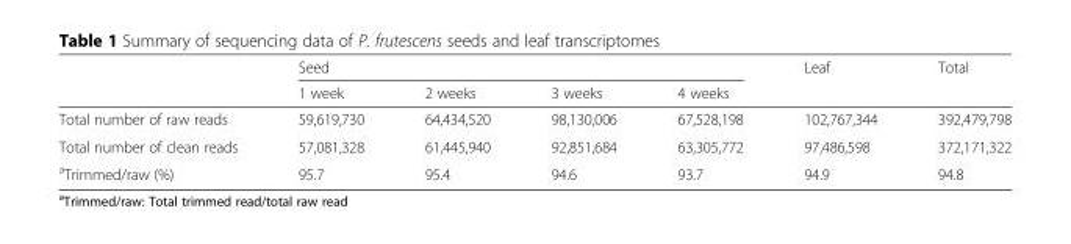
<table><thead><tr><td rowspan="2"></td><td colspan="4">Seed</td><td rowspan="2">Leaf</td><td rowspan="2">Total</td></tr><tr><td>1 week</td><td>2 weeks</td><td>3 weeks</td><td>4 weeks</td></tr></thead><tbody><tr><td>Total number of raw reads</td><td>59,619,730</td><td>64,434,520</td><td>98,130,006</td><td>67,528,198</td><td>102,767,344</td><td>392,479,798</td></tr><tr><td>Total number of clean reads</td><td>57,081,328</td><td>61,445,940</td><td>92,851,684</td><td>63,305,772</td><td>97,486,598</td><td>372,171,322</td></tr><tr><td><sup>a</sup>Trimmed/raw (%)</td><td>95.7</td><td>95.4</td><td>94.6</td><td>93.7</td><td>94.9</td><td>94.8</td></tr></tbody></table>